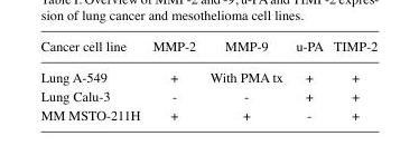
<table><thead><tr><td>Cancer cell line</td><td>MMP-2</td><td>MMP-9</td><td>u-PA</td><td>TIMP-2</td></tr></thead><tbody><tr><td>Lung A-549</td><td>+</td><td>With PMA tx</td><td>+</td><td>+</td></tr><tr><td>Lung Calu-3</td><td>-</td><td>-</td><td>+</td><td>+</td></tr><tr><td>MM MSTO-211H</td><td>+</td><td>+</td><td>-</td><td>+</td></tr></tbody></table>